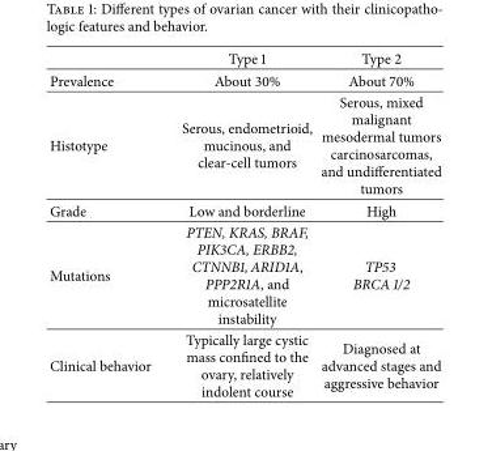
<table><thead><tr><td></td><td>Type 1</td><td>Type 2</td></tr></thead><tbody><tr><td>Prevalence</td><td>About 30%</td><td>About 70%</td></tr><tr><td>Histotype</td><td>Serous, endometrioid, mucinous, and clear-cell tumors</td><td>Serous, mixed malignant mesodermal tumors carcinosarcomas, and undifferentiated tumors</td></tr><tr><td>Grade</td><td>Low and borderline</td><td>High</td></tr><tr><td>Mutations</td><td>PTEN, KRAS, BRAF, PIK3CA, ERBB2, CTNNB1, ARID1A, PPP2R1A, and microsatellite instability</td><td>TP53 BRCA 1/2</td></tr><tr><td>Clinical behavior</td><td>Typically large cystic mass confined to the ovary, relatively indolent course</td><td>Diagnosed at advanced stages and aggressive behavior</td></tr></tbody></table>